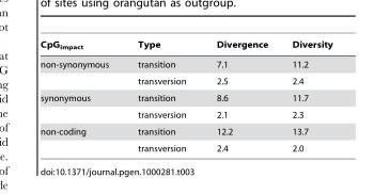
<table><thead><tr><td>CpG<sub>impact</sub></td><td>Type</td><td>Divergence</td><td>Diversity</td></tr></thead><tbody><tr><td rowspan="2">non-synonymous</td><td>transition</td><td>7.1</td><td>11.2</td></tr><tr><td>transversion</td><td>2.5</td><td>2.4</td></tr><tr><td rowspan="2">synonymous</td><td>transition</td><td>8.6</td><td>11.7</td></tr><tr><td>transversion</td><td>2.1</td><td>2.3</td></tr><tr><td rowspan="2">non-coding</td><td>transition</td><td>12.2</td><td>13.7</td></tr><tr><td>transversion</td><td>2.4</td><td>2.0</td></tr></tbody></table>